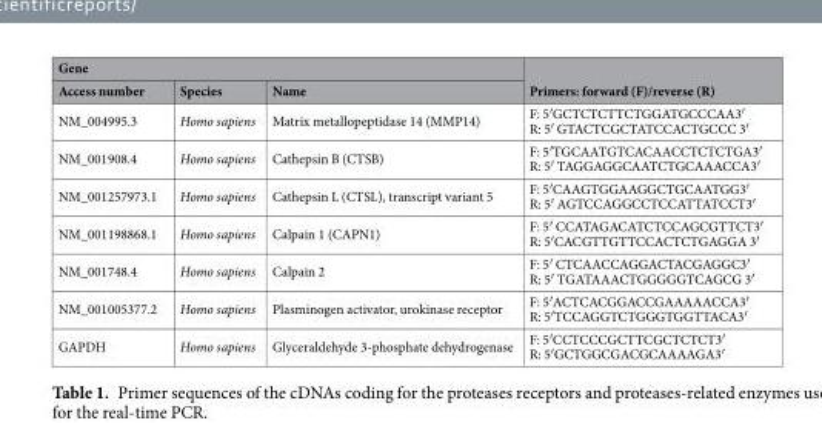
<table><thead><tr><td colspan="3">Gene</td><td rowspan="2">Primers: forward (F)/reverse (R)</td></tr><tr><td>Access number</td><td>Species</td><td>Name</td></tr></thead><tbody><tr><td>NM_004995.3</td><td>Homo sapiens</td><td>Matrix metallopeptidase 14 (MMP14)</td><td>F: 5′GCTCTCTTCTGGATGCCCAA3′ R: 5′ GTACTCGCTATCCACTGCCC 3′</td></tr><tr><td>NM_001908.4</td><td>Homo sapiens</td><td>Cathepsin B (CTSB)</td><td>F: 5′TGCAATGTCACAACCTCTCTGA3′ R: 5′ TAGGAGGCAATCTGCAAACCA3′</td></tr><tr><td>NM_001257973.1</td><td>Homo sapiens</td><td>Cathepsin L (CTSL), transcript variant 5</td><td>F: 5′CAAGTGGAAGGCTGCAATGG3′ R: 5′ AGTCCAGGCCTCCATTATCCT3′</td></tr><tr><td>NM_001198868.1</td><td>Homo sapiens</td><td>Calpain 1 (CAPN1)</td><td>F: 5′ CCATAGACATCTCCAGCGTTCT3′ R: 5′CACGTTGTTCCACTCTGAGGA 3′</td></tr><tr><td>NM_001748.4</td><td>Homo sapiens</td><td>Calpain 2</td><td>F: 5′ CTCAACCAGGACTACGAGGC3′ R: 5′ TGATAAACTGGGGGTCAGCG 3′</td></tr><tr><td>NM_001005377.2</td><td>Homo sapiens</td><td>Plasminogen activator, urokinase receptor</td><td>F: 5′ACTCACGGACCGAAAAACCA3′ R: 5′TCCAGGTCTGGGTGGTTACA3′</td></tr><tr><td>GAPDH</td><td>Homo sapiens</td><td>Glyceraldehyde 3-phosphate dehydrogenase</td><td>F: 5′CCTCCCGCTTCGCTCTCT3′ R: 5′GCTGGCGACGCAAAAGA3′</td></tr></tbody></table>